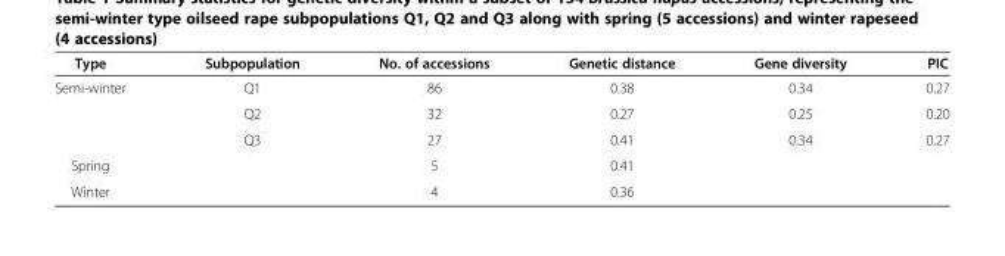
<table><thead><tr><td>Type</td><td>Subpopulation</td><td>No. of accessions</td><td>Genetic distance</td><td>Gene diversity</td><td>PIC</td></tr></thead><tbody><tr><td rowspan="3">Semi-winter</td><td>Q1</td><td>86</td><td>0.38</td><td>0.34</td><td>0.27</td></tr><tr><td>Q2</td><td>32</td><td>0.27</td><td>0.25</td><td>0.20</td></tr><tr><td>Q3</td><td>27</td><td>0.41</td><td>0.34</td><td>0.27</td></tr><tr><td>Spring</td><td></td><td>5</td><td>0.41</td><td></td><td></td></tr><tr><td>Winter</td><td></td><td>4</td><td>0.36</td><td></td><td></td></tr></tbody></table>